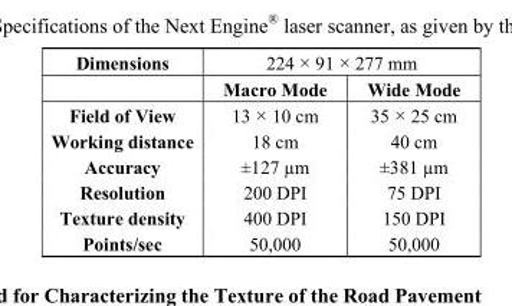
<table><thead><tr><td rowspan="2">Dimensions</td><td colspan="2">224 × 91 × 277 mm</td></tr><tr><td>Macro Mode</td><td>Wide Mode</td></tr></thead><tbody><tr><td>Field of View</td><td>13 × 10 cm</td><td>35 × 25 cm</td></tr><tr><td>Working distance</td><td>18 cm</td><td>40 cm</td></tr><tr><td>Accuracy</td><td>±127 µm</td><td>±381 µm</td></tr><tr><td>Resolution</td><td>200 DPI</td><td>75 DPI</td></tr><tr><td>Texture density</td><td>400 DPI</td><td>150 DPI</td></tr><tr><td>Points/sec</td><td>50,000</td><td>50,000</td></tr></tbody></table>